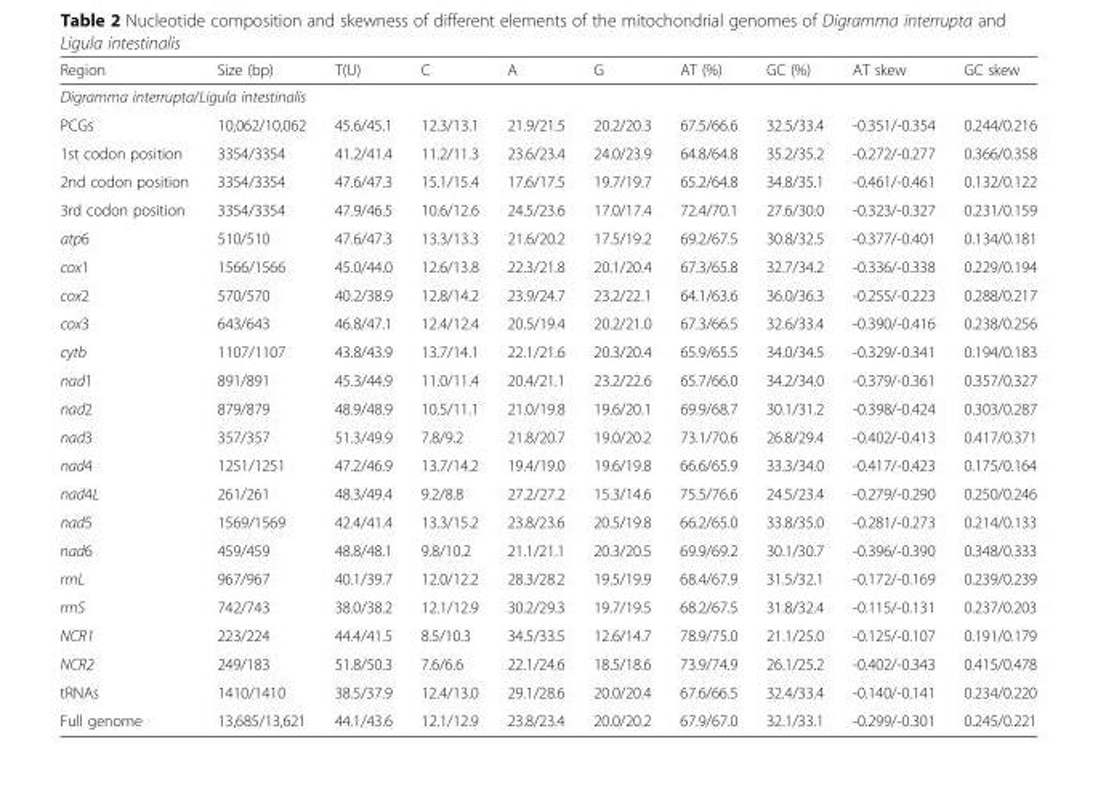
<table><thead><tr><td>Region</td><td>Size (bp)</td><td>T(U)</td><td>C</td><td>A</td><td>G</td><td>AT (%)</td><td>GC (%)</td><td>AT skew</td><td>GC skew</td></tr></thead><tbody><tr><td colspan="10">Digramma interrupta/Ligula intestinalis</td></tr><tr><td>PCGs</td><td>10,062/10,062</td><td>45.6/45.1</td><td>12.3/13.1</td><td>21.9/21.5</td><td>20.2/20.3</td><td>67.5/66.6</td><td>32.5/33.4</td><td>-0.351/-0.354</td><td>0.244/0.216</td></tr><tr><td>1st codon position</td><td>3354/3354</td><td>41.2/41.4</td><td>11.2/11.3</td><td>23.6/23.4</td><td>24.0/23.9</td><td>64.8/64.8</td><td>35.2/35.2</td><td>-0.272/-0.277</td><td>0.366/0.358</td></tr><tr><td>2nd codon position</td><td>3354/3354</td><td>47.6/47.3</td><td>15.1/15.4</td><td>17.6/17.5</td><td>19.7/19.7</td><td>65.2/64.8</td><td>34.8/35.1</td><td>-0.461/-0.461</td><td>0.132/0.122</td></tr><tr><td>3rd codon position</td><td>3354/3354</td><td>47.9/46.5</td><td>10.6/12.6</td><td>24.5/23.6</td><td>17.0/17.4</td><td>72.4/70.1</td><td>27.6/30.0</td><td>-0.323/-0.327</td><td>0.231/0.159</td></tr><tr><td>atp6</td><td>510/510</td><td>47.6/47.3</td><td>13.3/13.3</td><td>21.6/20.2</td><td>17.5/19.2</td><td>69.2/67.5</td><td>30.8/32.5</td><td>-0.377/-0.401</td><td>0.134/0.181</td></tr><tr><td>cox1</td><td>1566/1566</td><td>45.0/44.0</td><td>12.6/13.8</td><td>22.3/21.8</td><td>20.1/20.4</td><td>67.3/65.8</td><td>32.7/34.2</td><td>-0.336/-0.338</td><td>0.229/0.194</td></tr><tr><td>cox2</td><td>570/570</td><td>40.2/38.9</td><td>12.8/14.2</td><td>23.9/24.7</td><td>23.2/22.1</td><td>64.1/63.6</td><td>36.0/36.3</td><td>-0.255/-0.223</td><td>0.288/0.217</td></tr><tr><td>cox3</td><td>643/643</td><td>46.8/47.1</td><td>12.4/12.4</td><td>20.5/19.4</td><td>20.2/21.0</td><td>67.3/66.5</td><td>32.6/33.4</td><td>-0.390/-0.416</td><td>0.238/0.256</td></tr><tr><td>cytb</td><td>1107/1107</td><td>43.8/43.9</td><td>13.7/14.1</td><td>22.1/21.6</td><td>20.3/20.4</td><td>65.9/65.5</td><td>34.0/34.5</td><td>-0.329/-0.341</td><td>0.194/0.183</td></tr><tr><td>nad1</td><td>891/891</td><td>45.3/44.9</td><td>11.0/11.4</td><td>20.4/21.1</td><td>23.2/22.6</td><td>65.7/66.0</td><td>34.2/34.0</td><td>-0.379/-0.361</td><td>0.357/0.327</td></tr><tr><td>nad2</td><td>879/879</td><td>48.9/48.9</td><td>10.5/11.1</td><td>21.0/19.8</td><td>19.6/20.1</td><td>69.9/68.7</td><td>30.1/31.2</td><td>-0.398/-0.424</td><td>0.303/0.287</td></tr><tr><td>nad3</td><td>357/357</td><td>51.3/49.9</td><td>7.8/9.2</td><td>21.8/20.7</td><td>19.0/20.2</td><td>73.1/70.6</td><td>26.8/29.4</td><td>-0.402/-0.413</td><td>0.417/0.371</td></tr><tr><td>nad4</td><td>1251/1251</td><td>47.2/46.9</td><td>13.7/14.2</td><td>19.4/19.0</td><td>19.6/19.8</td><td>66.6/65.9</td><td>33.3/34.0</td><td>-0.417/-0.423</td><td>0.175/0.164</td></tr><tr><td>nad4L</td><td>261/261</td><td>48.3/49.4</td><td>9.2/8.8</td><td>27.2/27.2</td><td>15.3/14.6</td><td>75.5/76.6</td><td>24.5/23.4</td><td>-0.279/-0.290</td><td>0.250/0.246</td></tr><tr><td>nad5</td><td>1569/1569</td><td>42.4/41.4</td><td>13.3/15.2</td><td>23.8/23.6</td><td>20.5/19.8</td><td>66.2/65.0</td><td>33.8/35.0</td><td>-0.281/-0.273</td><td>0.214/0.133</td></tr><tr><td>nad6</td><td>459/459</td><td>48.8/48.1</td><td>9.8/10.2</td><td>21.1/21.1</td><td>20.3/20.5</td><td>69.9/69.2</td><td>30.1/30.7</td><td>-0.396/-0.390</td><td>0.348/0.333</td></tr><tr><td>rrnL</td><td>967/967</td><td>40.1/39.7</td><td>12.0/12.2</td><td>28.3/28.2</td><td>19.5/19.9</td><td>68.4/67.9</td><td>31.5/32.1</td><td>-0.172/-0.169</td><td>0.239/0.239</td></tr><tr><td>rrnS</td><td>742/743</td><td>38.0/38.2</td><td>12.1/12.9</td><td>30.2/29.3</td><td>19.7/19.5</td><td>68.2/67.5</td><td>31.8/32.4</td><td>-0.115/-0.131</td><td>0.237/0.203</td></tr><tr><td>NCR1</td><td>223/224</td><td>44.4/41.5</td><td>8.5/10.3</td><td>34.5/33.5</td><td>12.6/14.7</td><td>78.9/75.0</td><td>21.1/25.0</td><td>-0.125/-0.107</td><td>0.191/0.179</td></tr><tr><td>NCR2</td><td>249/183</td><td>51.8/50.3</td><td>7.6/6.6</td><td>22.1/24.6</td><td>18.5/18.6</td><td>73.9/74.9</td><td>26.1/25.2</td><td>-0.402/-0.343</td><td>0.415/0.478</td></tr><tr><td>tRNAs</td><td>1410/1410</td><td>38.5/37.9</td><td>12.4/13.0</td><td>29.1/28.6</td><td>20.0/20.4</td><td>67.6/66.5</td><td>32.4/33.4</td><td>-0.140/-0.141</td><td>0.234/0.220</td></tr><tr><td>Full genome</td><td>13,685/13,621</td><td>44.1/43.6</td><td>12.1/12.9</td><td>23.8/23.4</td><td>20.0/20.2</td><td>67.9/67.0</td><td>32.1/33.1</td><td>-0.299/-0.301</td><td>0.245/0.221</td></tr></tbody></table>